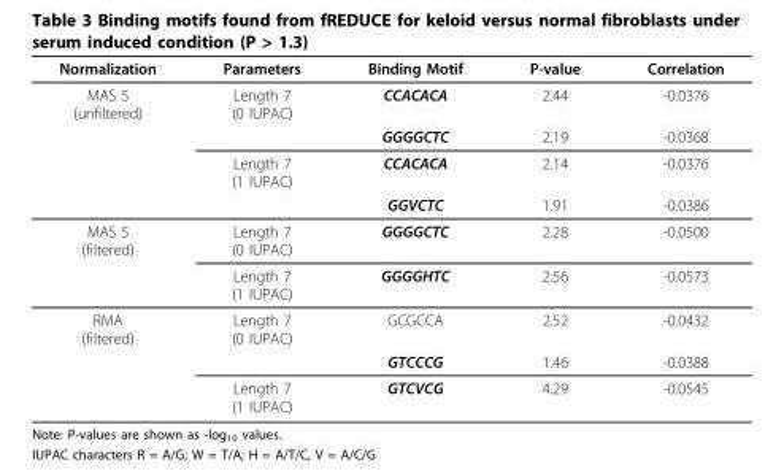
<table><thead><tr><td>Normalization</td><td>Parameters</td><td>Binding Motif</td><td>P-value</td><td>Correlation</td></tr></thead><tbody><tr><td rowspan="4">MAS 5 (unfiltered)</td><td>Length 7 (0 IUPAC)</td><td>CCACACA</td><td>2.44</td><td>-0.0376</td></tr><tr><td></td><td>GGGGCTC</td><td>2.19</td><td>-0.0368</td></tr><tr><td>Length 7 (1 IUPAC)</td><td>CCACACA</td><td>2.14</td><td>-0.0376</td></tr><tr><td></td><td>GGVCTC</td><td>1.91</td><td>-0.0386</td></tr><tr><td rowspan="2">MAS 5 (filtered)</td><td>Length 7 (0 IUPAC)</td><td>GGGGCTC</td><td>2.28</td><td>-0.0500</td></tr><tr><td>Length 7 (1 IUPAC)</td><td>GGGGHTC</td><td>2.56</td><td>-0.0573</td></tr><tr><td rowspan="3">RMA (filtered)</td><td>Length 7 (0 IUPAC)</td><td>GCGCCA</td><td>2.52</td><td>-0.0432</td></tr><tr><td></td><td>GTCCCG</td><td>1.46</td><td>-0.0388</td></tr><tr><td>Length 7 (1 IUPAC)</td><td>GTCVCG</td><td>4.29</td><td>-0.0545</td></tr></tbody></table>